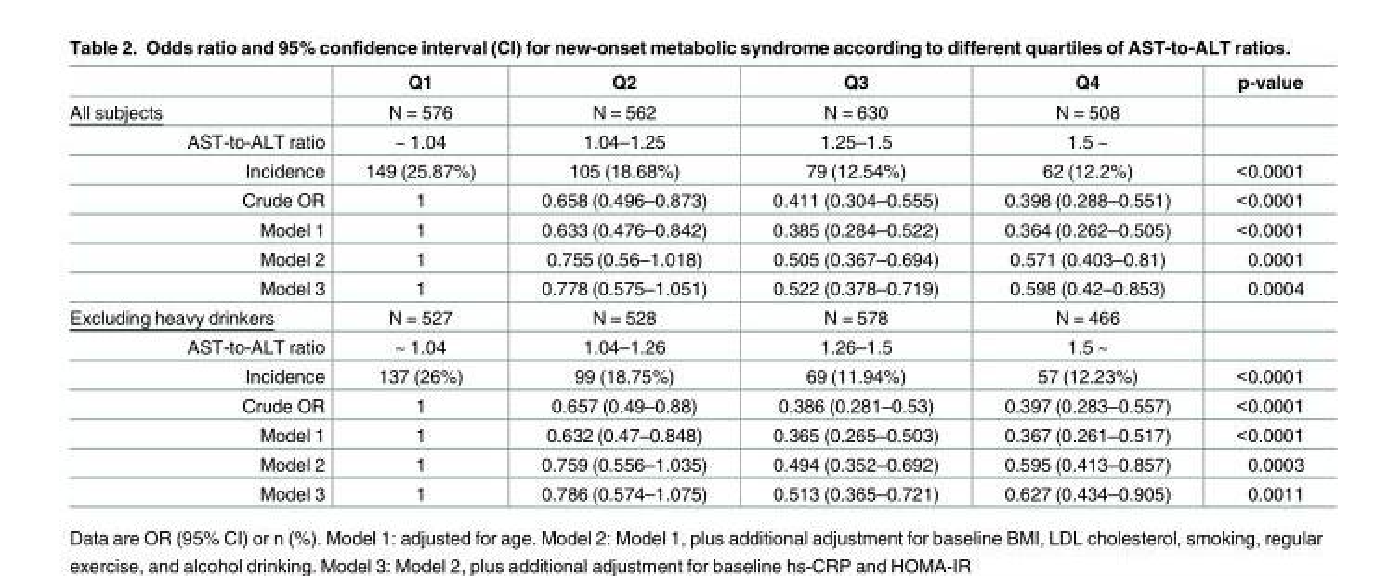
<table><thead><tr><td></td><td>Q1</td><td>Q2</td><td>Q3</td><td>Q4</td><td>p-value</td></tr></thead><tbody><tr><td>All subjects</td><td>N = 576</td><td>N = 562</td><td>N = 630</td><td>N = 508</td><td></td></tr><tr><td>AST-to-ALT ratio</td><td>~ 1.04</td><td>1.04–1.25</td><td>1.25–1.5</td><td>1.5 ~</td><td></td></tr><tr><td>Incidence</td><td>149 (25.87%)</td><td>105 (18.68%)</td><td>79 (12.54%)</td><td>62 (12.2%)</td><td>&lt;0.0001</td></tr><tr><td>Crude OR</td><td>1</td><td>0.658 (0.496–0.873)</td><td>0.411 (0.304–0.555)</td><td>0.398 (0.288–0.551)</td><td>&lt;0.0001</td></tr><tr><td>Model 1</td><td>1</td><td>0.633 (0.476–0.842)</td><td>0.385 (0.284–0.522)</td><td>0.364 (0.262–0.505)</td><td>&lt;0.0001</td></tr><tr><td>Model 2</td><td>1</td><td>0.755 (0.56–1.018)</td><td>0.505 (0.367–0.694)</td><td>0.571 (0.403–0.81)</td><td>0.0001</td></tr><tr><td>Model 3</td><td>1</td><td>0.778 (0.575–1.051)</td><td>0.522 (0.378–0.719)</td><td>0.598 (0.42–0.853)</td><td>0.0004</td></tr><tr><td>Excluding heavy drinkers</td><td>N = 527</td><td>N = 528</td><td>N = 578</td><td>N = 466</td><td></td></tr><tr><td>AST-to-ALT ratio</td><td>~ 1.04</td><td>1.04–1.26</td><td>1.26–1.5</td><td>1.5 ~</td><td></td></tr><tr><td>Incidence</td><td>137 (26%)</td><td>99 (18.75%)</td><td>69 (11.94%)</td><td>57 (12.23%)</td><td>&lt;0.0001</td></tr><tr><td>Crude OR</td><td>1</td><td>0.657 (0.49–0.88)</td><td>0.386 (0.281–0.53)</td><td>0.397 (0.283–0.557)</td><td>&lt;0.0001</td></tr><tr><td>Model 1</td><td>1</td><td>0.632 (0.47–0.848)</td><td>0.365 (0.265–0.503)</td><td>0.367 (0.261–0.517)</td><td>&lt;0.0001</td></tr><tr><td>Model 2</td><td>1</td><td>0.759 (0.556–1.035)</td><td>0.494 (0.352–0.692)</td><td>0.595 (0.413–0.857)</td><td>0.0003</td></tr><tr><td>Model 3</td><td>1</td><td>0.786 (0.574–1.075)</td><td>0.513 (0.365–0.721)</td><td>0.627 (0.434–0.905)</td><td>0.0011</td></tr></tbody></table>